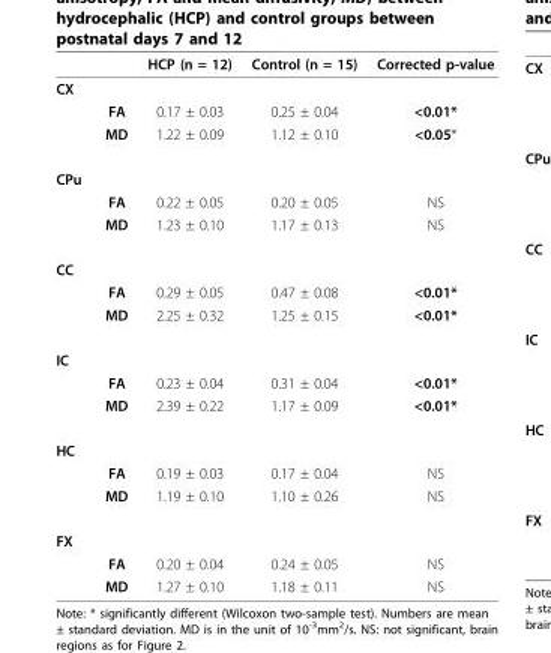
<table><thead><tr><td></td><td></td><td>HCP (n = 12)</td><td>Control (n = 15)</td><td>Corrected p-value</td></tr></thead><tbody><tr><td colspan="5">CX</td></tr><tr><td></td><td>FA</td><td>0.17 ± 0.03</td><td>0.25 ± 0.04</td><td>&lt;0.01*</td></tr><tr><td></td><td>MD</td><td>1.22 ± 0.09</td><td>1.12 ± 0.10</td><td>&lt;0.05*</td></tr><tr><td colspan="5">CPu</td></tr><tr><td></td><td>FA</td><td>0.22 ± 0.05</td><td>0.20 ± 0.05</td><td>NS</td></tr><tr><td></td><td>MD</td><td>1.23 ± 0.10</td><td>1.17 ± 0.13</td><td>NS</td></tr><tr><td colspan="5">CC</td></tr><tr><td></td><td>FA</td><td>0.29 ± 0.05</td><td>0.47 ± 0.08</td><td>&lt;0.01*</td></tr><tr><td></td><td>MD</td><td>2.25 ± 0.32</td><td>1.25 ± 0.15</td><td>&lt;0.01*</td></tr><tr><td colspan="5">IC</td></tr><tr><td></td><td>FA</td><td>0.23 ± 0.04</td><td>0.31 ± 0.04</td><td>&lt;0.01*</td></tr><tr><td></td><td>MD</td><td>2.39 ± 0.22</td><td>1.17 ± 0.09</td><td>&lt;0.01*</td></tr><tr><td colspan="5">HC</td></tr><tr><td></td><td>FA</td><td>0.19 ± 0.03</td><td>0.17 ± 0.04</td><td>NS</td></tr><tr><td></td><td>MD</td><td>1.19 ± 0.10</td><td>1.10 ± 0.26</td><td>NS</td></tr><tr><td colspan="5">FX</td></tr><tr><td></td><td>FA</td><td>0.20 ± 0.04</td><td>0.24 ± 0.05</td><td>NS</td></tr><tr><td></td><td>MD</td><td>1.27 ± 0.10</td><td>1.18 ± 0.11</td><td>NS</td></tr></tbody></table>